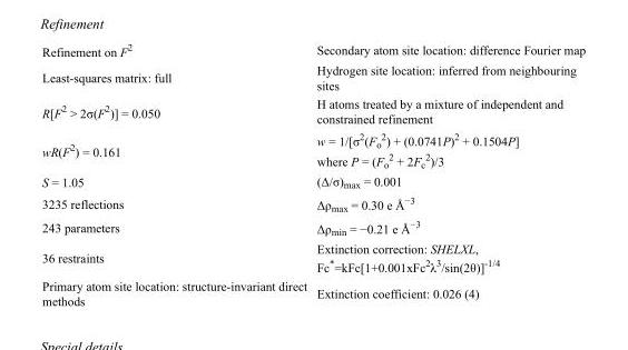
<table><tbody><tr><td>Refinement on F<sup>2</sup></td><td>Secondary atom site location: difference Fourier map</td></tr><tr><td>Least-squares matrix: full</td><td>Hydrogen site location: inferred from neighbouring sites</td></tr><tr><td>R[F<sup>2</sup> &gt; 2σ(F<sup>2</sup>)] = 0.050</td><td>H atoms treated by a mixture of independent and constrained refinement</td></tr><tr><td>wR(F<sup>2</sup>) = 0.161</td><td>w = 1/[σ<sup>2</sup>(F<sub>o</sub> <sup>2</sup>) + (0.0741P)<sup>2</sup> + 0.1504P] where P = (F<sub>o</sub> <sup>2</sup> + 2F<sub>c</sub> <sup>2</sup>)/3</td></tr><tr><td>S = 1.05</td><td>(Δ/σ)<sub>max</sub> = 0.001</td></tr><tr><td>3235 reflections</td><td>Δρ<sub>max</sub> = 0.30 e Å<sup>−3</sup></td></tr><tr><td>243 parameters</td><td>Δρ<sub>min</sub> = −0.21 e Å<sup>−3</sup></td></tr><tr><td>36 restraints</td><td>Extinction correction: SHELXL, Fc*=kFc[1+0.001xFc<sup>2</sup>λ<sup>3</sup>/sin(2θ)]<sup>-1/4</sup></td></tr><tr><td>Primary atom site location: structure-invariant direct methods</td><td>Extinction coefficient: 0.026 (4)</td></tr></tbody></table>